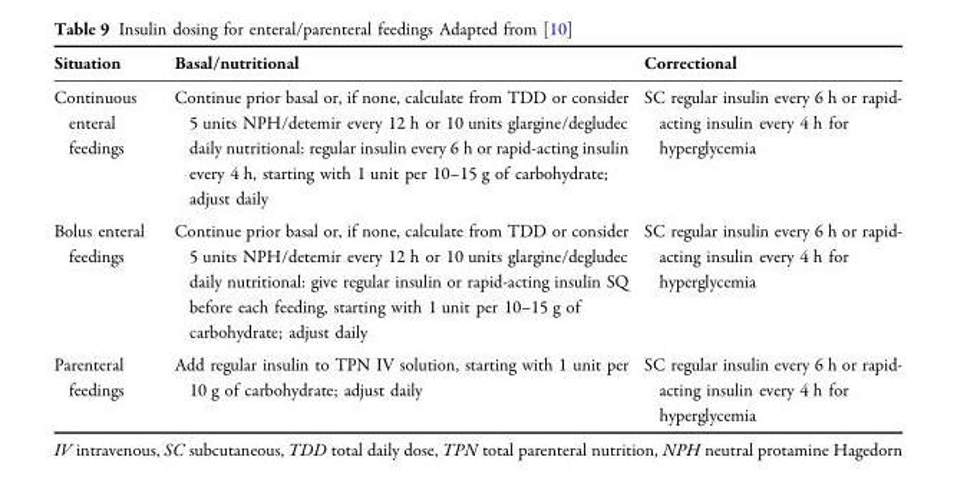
<table><thead><tr><td>Situation</td><td>Basal/nutritional</td><td>Correctional</td></tr></thead><tbody><tr><td>Continuous enteral feedings</td><td>Continue prior basal or, if none, calculate from TDD or consider 5 units NPH/detemir every 12 h or 10 units glargine/degludec daily nutritional: regular insulin every 6 h or rapid-acting insulin every 4 h, starting with 1 unit per 10–15 g of carbohydrate; adjust daily</td><td>SC regular insulin every 6 h or rapid- acting insulin every 4 h for hyperglycemia</td></tr><tr><td>Bolus enteral feedings</td><td>Continue prior basal or, if none, calculate from TDD or consider 5 units NPH/detemir every 12 h or 10 units glargine/degludec daily nutritional: give regular insulin or rapid-acting insulin SQ before each feeding, starting with 1 unit per 10–15 g of carbohydrate; adjust daily</td><td>SC regular insulin every 6 h or rapid- acting insulin every 4 h for hyperglycemia</td></tr><tr><td>Parenteral feedings</td><td>Add regular insulin to TPN IV solution, starting with 1 unit per 10 g of carbohydrate; adjust daily</td><td>SC regular insulin every 6 h or rapid- acting insulin every 4 h for hyperglycemia</td></tr></tbody></table>